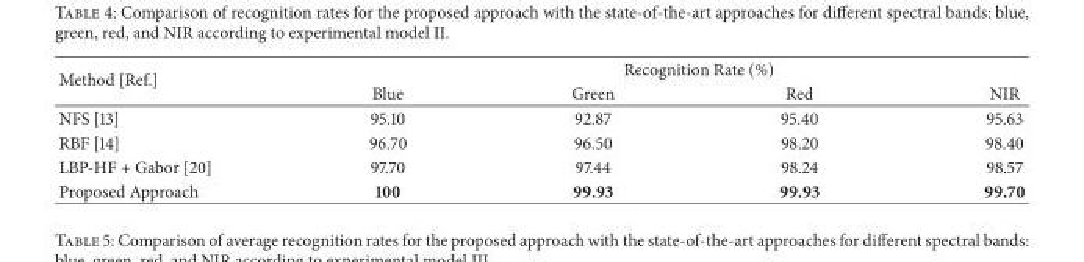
<table><thead><tr><td rowspan="2">Method [Ref.]</td><td colspan="4">Recognition Rate (%)</td></tr><tr><td>Blue</td><td>Green</td><td>Red</td><td>NIR</td></tr></thead><tbody><tr><td>NFS [13]</td><td>95.10</td><td>92.87</td><td>95.40</td><td>95.63</td></tr><tr><td>RBF [14]</td><td>96.70</td><td>96.50</td><td>98.20</td><td>98.40</td></tr><tr><td>LBP-HF + Gabor [20]</td><td>97.70</td><td>97.44</td><td>98.24</td><td>98.57</td></tr><tr><td>Proposed Approach</td><td>100</td><td>99.93</td><td>99.93</td><td>99.70</td></tr></tbody></table>